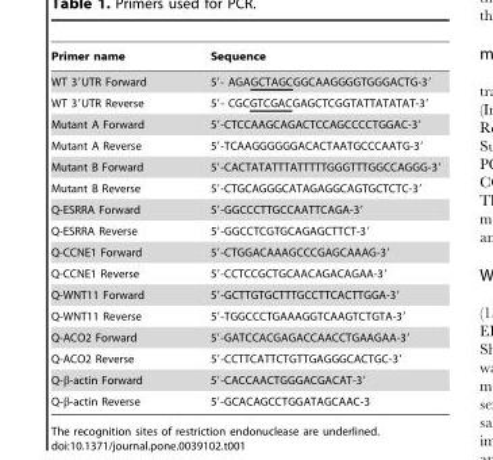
<table><thead><tr><td>Primer name</td><td>Sequence</td></tr></thead><tbody><tr><td>WT 3′UTR Forward</td><td>5′- AGAGCTAGCGGCAAGGGGTGGGACTG-3′</td></tr><tr><td>WT 3′UTR Reverse</td><td>5′- CGCGTCGACGAGCTCGGTATTATATAT-3′</td></tr><tr><td>Mutant A Forward</td><td>5′-CTCCAAGCAGACTCCAGCCCCTGGAC-3′</td></tr><tr><td>Mutant A Reverse</td><td>5′-TCAAGGGGGGACACTAATGCCCAATG-3′</td></tr><tr><td>Mutant B Forward</td><td>5′-CACTATATTTATTTTTGGGTTTGGCCAGGG-3′</td></tr><tr><td>Mutant B Reverse</td><td>5′-CTGCAGGGCATAGAGGCAGTGCTCTC-3′</td></tr><tr><td>Q-ESRRA Forward</td><td>5′-GGCCCTTGCCAATTCAGA-3′</td></tr><tr><td>Q-ESRRA Reverse</td><td>5′-GGCCTCGTGCAGAGCTTCT-3′</td></tr><tr><td>Q-CCNE1 Forward</td><td>5′-CTGGACAAAGCCCGAGCAAAG-3′</td></tr><tr><td>Q-CCNE1 Reverse</td><td>5′-CCTCCGCTGCAACAGACAGAA-3′</td></tr><tr><td>Q-WNT11 Forward</td><td>5′-GCTTGTGCTTTGCCTTCACTTGGA-3′</td></tr><tr><td>Q-WNT11 Reverse</td><td>5′-TGGCCCTGAAAGGTCAAGTCTGTA-3′</td></tr><tr><td>Q-ACO2 Forward</td><td>5′-GATCCACGAGACCAACCTGAAGAA-3′</td></tr><tr><td>Q-ACO2 Reverse</td><td>5′-CCTTCATTCTGTTGAGGGCACTGC-3′</td></tr><tr><td>Q-β-actin Forward</td><td>5′-CACCAACTGGGACGACAT-3′</td></tr><tr><td>Q-β-actin Reverse</td><td>5′-GCACAGCCTGGATAGCAAC-3</td></tr></tbody></table>